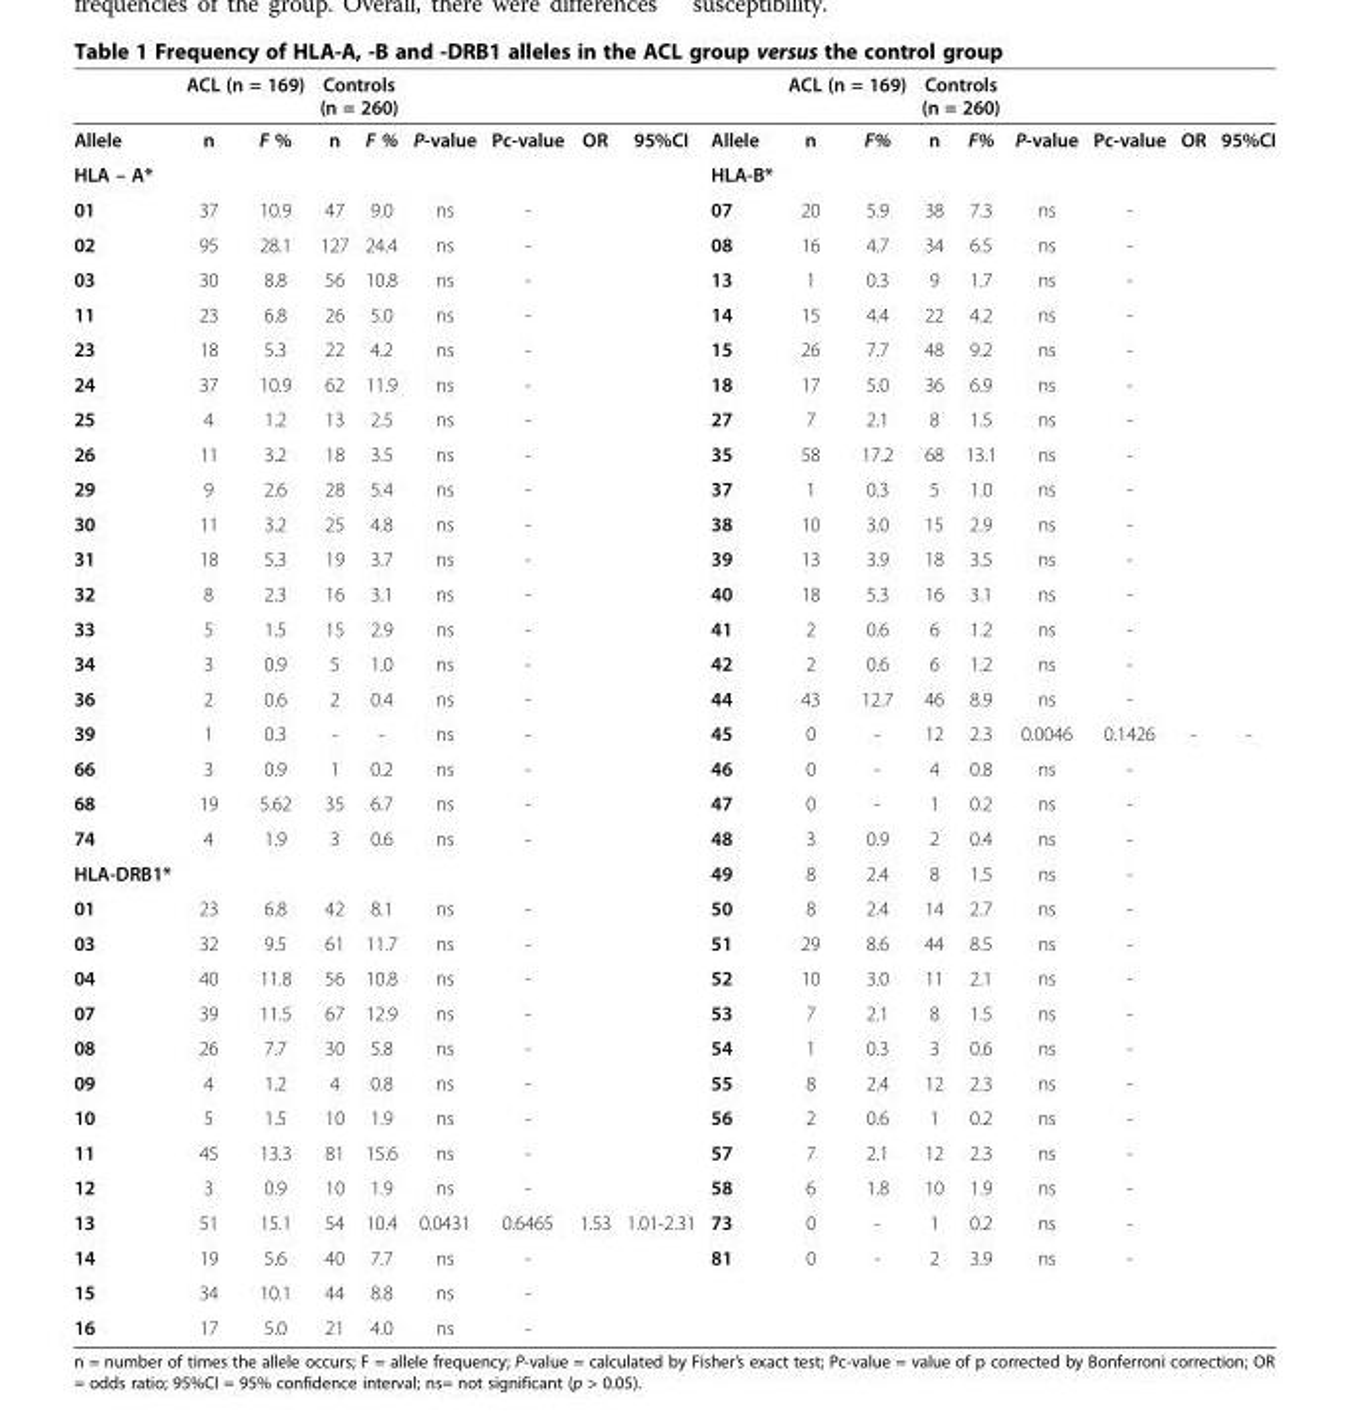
<table><thead><tr><td rowspan="2">Allele</td><td colspan="2">ACL (n = 169)</td><td colspan="2">Controls (n = 260)</td><td rowspan="2">P-value</td><td rowspan="2">Pc-value</td><td rowspan="2">OR</td><td rowspan="2">95%CI</td><td rowspan="2">Allele</td><td colspan="2">ACL (n = 169)</td><td colspan="2">Controls (n = 260)</td><td rowspan="2">P-value</td><td rowspan="2">Pc-value</td><td rowspan="2">OR</td><td rowspan="2">95%CI</td></tr><tr><td>n</td><td>F %</td><td>n</td><td>F %</td><td>n</td><td>F%</td><td>n</td><td>F%</td></tr></thead><tbody><tr><td>HLA – A*</td><td></td><td></td><td></td><td></td><td></td><td></td><td></td><td></td><td>HLA-B*</td><td></td><td></td><td></td><td></td><td></td><td></td><td></td><td></td></tr><tr><td>01</td><td>37</td><td>10.9</td><td>47</td><td>9.0</td><td>ns</td><td>-</td><td></td><td></td><td>07</td><td>20</td><td>5.9</td><td>38</td><td>7.3</td><td>ns</td><td>-</td><td></td><td></td></tr><tr><td>02</td><td>95</td><td>28.1</td><td>127</td><td>24.4</td><td>ns</td><td>-</td><td></td><td></td><td>08</td><td>16</td><td>4.7</td><td>34</td><td>6.5</td><td>ns</td><td>-</td><td></td><td></td></tr><tr><td>03</td><td>30</td><td>8.8</td><td>56</td><td>10.8</td><td>ns</td><td>-</td><td></td><td></td><td>13</td><td>1</td><td>0.3</td><td>9</td><td>1.7</td><td>ns</td><td>-</td><td></td><td></td></tr><tr><td>11</td><td>23</td><td>6.8</td><td>26</td><td>5.0</td><td>ns</td><td>-</td><td></td><td></td><td>14</td><td>15</td><td>4.4</td><td>22</td><td>4.2</td><td>ns</td><td>-</td><td></td><td></td></tr><tr><td>23</td><td>18</td><td>5.3</td><td>22</td><td>4.2</td><td>ns</td><td>-</td><td></td><td></td><td>15</td><td>26</td><td>7.7</td><td>48</td><td>9.2</td><td>ns</td><td>-</td><td></td><td></td></tr><tr><td>24</td><td>37</td><td>10.9</td><td>62</td><td>11.9</td><td>ns</td><td>-</td><td></td><td></td><td>18</td><td>17</td><td>5.0</td><td>36</td><td>6.9</td><td>ns</td><td>-</td><td></td><td></td></tr><tr><td>25</td><td>4</td><td>1.2</td><td>13</td><td>2.5</td><td>ns</td><td>-</td><td></td><td></td><td>27</td><td>7</td><td>2.1</td><td>8</td><td>1.5</td><td>ns</td><td>-</td><td></td><td></td></tr><tr><td>26</td><td>11</td><td>3.2</td><td>18</td><td>3.5</td><td>ns</td><td>-</td><td></td><td></td><td>35</td><td>58</td><td>17.2</td><td>68</td><td>13.1</td><td>ns</td><td>-</td><td></td><td></td></tr><tr><td>29</td><td>9</td><td>2.6</td><td>28</td><td>5.4</td><td>ns</td><td>-</td><td></td><td></td><td>37</td><td>1</td><td>0.3</td><td>5</td><td>1.0</td><td>ns</td><td>-</td><td></td><td></td></tr><tr><td>30</td><td>11</td><td>3.2</td><td>25</td><td>4.8</td><td>ns</td><td>-</td><td></td><td></td><td>38</td><td>10</td><td>3.0</td><td>15</td><td>2.9</td><td>ns</td><td>-</td><td></td><td></td></tr><tr><td>31</td><td>18</td><td>5.3</td><td>19</td><td>3.7</td><td>ns</td><td>-</td><td></td><td></td><td>39</td><td>13</td><td>3.9</td><td>18</td><td>3.5</td><td>ns</td><td>-</td><td></td><td></td></tr><tr><td>32</td><td>8</td><td>2.3</td><td>16</td><td>3.1</td><td>ns</td><td>-</td><td></td><td></td><td>40</td><td>18</td><td>5.3</td><td>16</td><td>3.1</td><td>ns</td><td>-</td><td></td><td></td></tr><tr><td>33</td><td>5</td><td>1.5</td><td>15</td><td>2.9</td><td>ns</td><td>-</td><td></td><td></td><td>41</td><td>2</td><td>0.6</td><td>6</td><td>1.2</td><td>ns</td><td>-</td><td></td><td></td></tr><tr><td>34</td><td>3</td><td>0.9</td><td>5</td><td>1.0</td><td>ns</td><td>-</td><td></td><td></td><td>42</td><td>2</td><td>0.6</td><td>6</td><td>1.2</td><td>ns</td><td>-</td><td></td><td></td></tr><tr><td>36</td><td>2</td><td>0.6</td><td>2</td><td>0.4</td><td>ns</td><td>-</td><td></td><td></td><td>44</td><td>43</td><td>12.7</td><td>46</td><td>8.9</td><td>ns</td><td>-</td><td></td><td></td></tr><tr><td>39</td><td>1</td><td>0.3</td><td>-</td><td>-</td><td>ns</td><td>-</td><td></td><td></td><td>45</td><td>0</td><td>-</td><td>12</td><td>2.3</td><td>0.0046</td><td>0.1426</td><td>-</td><td>-</td></tr><tr><td>66</td><td>3</td><td>0.9</td><td>1</td><td>0.2</td><td>ns</td><td>-</td><td></td><td></td><td>46</td><td>0</td><td>-</td><td>4</td><td>0.8</td><td>ns</td><td>-</td><td></td><td></td></tr><tr><td>68</td><td>19</td><td>5.62</td><td>35</td><td>6.7</td><td>ns</td><td>-</td><td></td><td></td><td>47</td><td>0</td><td>-</td><td>1</td><td>0.2</td><td>ns</td><td>-</td><td></td><td></td></tr><tr><td>74</td><td>4</td><td>1.9</td><td>3</td><td>0.6</td><td>ns</td><td>-</td><td></td><td></td><td>48</td><td>3</td><td>0.9</td><td>2</td><td>0.4</td><td>ns</td><td>-</td><td></td><td></td></tr><tr><td>HLA-DRB1*</td><td></td><td></td><td></td><td></td><td></td><td></td><td></td><td></td><td>49</td><td>8</td><td>2.4</td><td>8</td><td>1.5</td><td>ns</td><td>-</td><td></td><td></td></tr><tr><td>01</td><td>23</td><td>6.8</td><td>42</td><td>8.1</td><td>ns</td><td>-</td><td></td><td></td><td>50</td><td>8</td><td>2.4</td><td>14</td><td>2.7</td><td>ns</td><td>-</td><td></td><td></td></tr><tr><td>03</td><td>32</td><td>9.5</td><td>61</td><td>11.7</td><td>ns</td><td>-</td><td></td><td></td><td>51</td><td>29</td><td>8.6</td><td>44</td><td>8.5</td><td>ns</td><td>-</td><td></td><td></td></tr><tr><td>04</td><td>40</td><td>11.8</td><td>56</td><td>10.8</td><td>ns</td><td>-</td><td></td><td></td><td>52</td><td>10</td><td>3.0</td><td>11</td><td>2.1</td><td>ns</td><td>-</td><td></td><td></td></tr><tr><td>07</td><td>39</td><td>11.5</td><td>67</td><td>12.9</td><td>ns</td><td>-</td><td></td><td></td><td>53</td><td>7</td><td>2.1</td><td>8</td><td>1.5</td><td>ns</td><td>-</td><td></td><td></td></tr><tr><td>08</td><td>26</td><td>7.7</td><td>30</td><td>5.8</td><td>ns</td><td>-</td><td></td><td></td><td>54</td><td>1</td><td>0.3</td><td>3</td><td>0.6</td><td>ns</td><td>-</td><td></td><td></td></tr><tr><td>09</td><td>4</td><td>1.2</td><td>4</td><td>0.8</td><td>ns</td><td>-</td><td></td><td></td><td>55</td><td>8</td><td>2.4</td><td>12</td><td>2.3</td><td>ns</td><td>-</td><td></td><td></td></tr><tr><td>10</td><td>5</td><td>1.5</td><td>10</td><td>1.9</td><td>ns</td><td>-</td><td></td><td></td><td>56</td><td>2</td><td>0.6</td><td>1</td><td>0.2</td><td>ns</td><td>-</td><td></td><td></td></tr><tr><td>11</td><td>45</td><td>13.3</td><td>81</td><td>15.6</td><td>ns</td><td>-</td><td></td><td></td><td>57</td><td>7</td><td>2.1</td><td>12</td><td>2.3</td><td>ns</td><td>-</td><td></td><td></td></tr><tr><td>12</td><td>3</td><td>0.9</td><td>10</td><td>1.9</td><td>ns</td><td>-</td><td></td><td></td><td>58</td><td>6</td><td>1.8</td><td>10</td><td>1.9</td><td>ns</td><td>-</td><td></td><td></td></tr><tr><td>13</td><td>51</td><td>15.1</td><td>54</td><td>10.4</td><td>0.0431</td><td>0.6465</td><td>1.53</td><td>1.01-2.31</td><td>73</td><td>0</td><td>-</td><td>1</td><td>0.2</td><td>ns</td><td>-</td><td></td><td></td></tr><tr><td>14</td><td>19</td><td>5.6</td><td>40</td><td>7.7</td><td>ns</td><td>-</td><td></td><td></td><td>81</td><td>0</td><td>-</td><td>2</td><td>3.9</td><td>ns</td><td>-</td><td></td><td></td></tr><tr><td>15</td><td>34</td><td>10.1</td><td>44</td><td>8.8</td><td>ns</td><td>-</td><td></td><td></td><td></td><td></td><td></td><td></td><td></td><td></td><td></td><td></td><td></td></tr><tr><td>16</td><td>17</td><td>5.0</td><td>21</td><td>4.0</td><td>ns</td><td>-</td><td></td><td></td><td></td><td></td><td></td><td></td><td></td><td></td><td></td><td></td><td></td></tr></tbody></table>